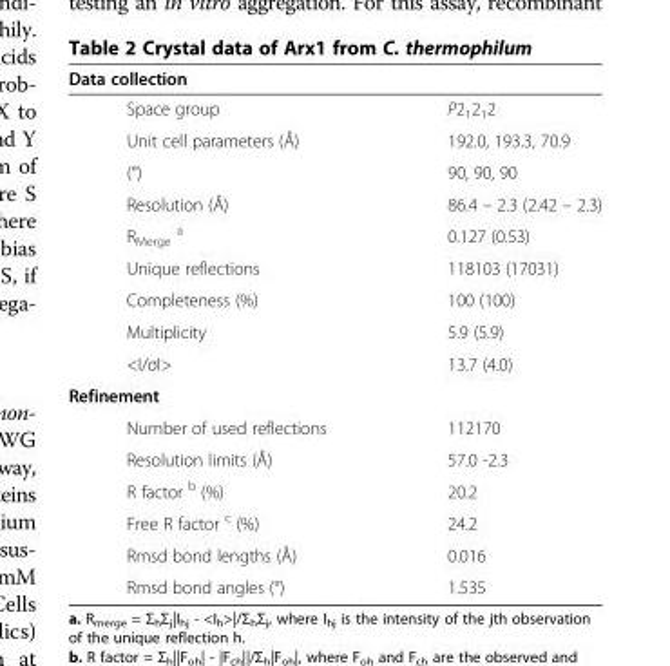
<table><thead><tr><td colspan="2">Data collection</td></tr><tr><td>Space group</td><td>P2<sub>1</sub>2<sub>1</sub>2</td></tr></thead><tbody><tr><td>Unit cell parameters (Å)</td><td>192.0, 193.3, 70.9</td></tr><tr><td>(°)</td><td>90, 90, 90</td></tr><tr><td>Resolution (Å)</td><td>86.4 – 2.3 (2.42 – 2.3)</td></tr><tr><td>R<sub>Merge</sub> <sup>a</sup></td><td>0.127 (0.53)</td></tr><tr><td>Unique reflections</td><td>118103 (17031)</td></tr><tr><td>Completeness (%)</td><td>100 (100)</td></tr><tr><td>Multiplicity</td><td>5.9 (5.9)</td></tr><tr><td>&lt;I/σI&gt;</td><td>13.7 (4.0)</td></tr><tr><td colspan="2">Refinement</td></tr><tr><td>Number of used reflections</td><td>112170</td></tr><tr><td>Resolution limits (Å)</td><td>57.0 -2.3</td></tr><tr><td>R factor <sup>b</sup> (%)</td><td>20.2</td></tr><tr><td>Free R factor <sup>c</sup> (%)</td><td>24.2</td></tr><tr><td>Rmsd bond lengths (Å)</td><td>0.016</td></tr><tr><td>Rmsd bond angles (°)</td><td>1.535</td></tr></tbody></table>